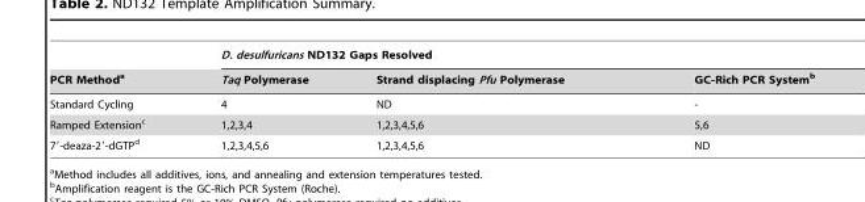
<table><thead><tr><td rowspan="2">PCR Method<sup>a</sup></td><td colspan="3">D. desulfuricans ND132 Gaps Resolved</td></tr><tr><td>Taq Polymerase</td><td>Strand displacing Pfu Polymerase</td><td>GC-Rich PCR System<sup>b</sup></td></tr></thead><tbody><tr><td>Standard Cycling</td><td>4</td><td>ND</td><td>-</td></tr><tr><td>Ramped Extension<sup>c</sup></td><td>1,2,3,4</td><td>1,2,3,4,5,6</td><td>5,6</td></tr><tr><td>7′-deaza-2′-dGTP<sup>d</sup></td><td>1,2,3,4,5,6</td><td>1,2,3,4,5,6</td><td>ND</td></tr></tbody></table>